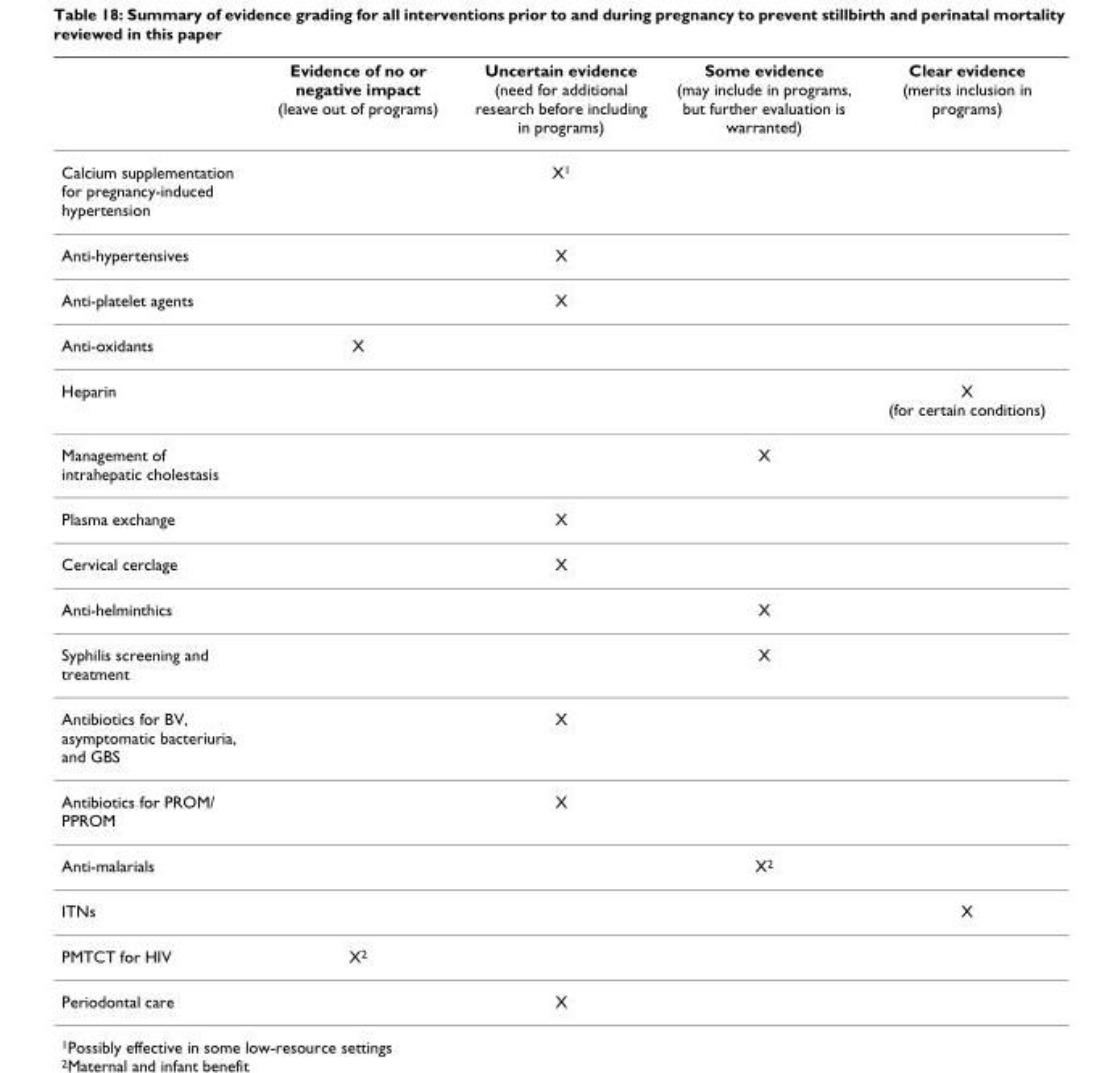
<table><thead><tr><td></td><td>Evidence of no or negative impact (leave out of programs)</td><td>Uncertain evidence (need for additional research before including in programs)</td><td>Some evidence (may include in programs, but further evaluation is warranted)</td><td>Clear evidence (merits inclusion in programs)</td></tr></thead><tbody><tr><td>Calcium supplementation for pregnancy-induced hypertension</td><td></td><td>X<sup>1</sup></td><td></td><td></td></tr><tr><td>Anti-hypertensives</td><td></td><td>X</td><td></td><td></td></tr><tr><td>Anti-platelet agents</td><td></td><td>X</td><td></td><td></td></tr><tr><td>Anti-oxidants</td><td>X</td><td></td><td></td><td></td></tr><tr><td>Heparin</td><td></td><td></td><td></td><td>X (for certain conditions)</td></tr><tr><td>Management of intrahepatic cholestasis</td><td></td><td></td><td>X</td><td></td></tr><tr><td>Plasma exchange</td><td></td><td>X</td><td></td><td></td></tr><tr><td>Cervical cerclage</td><td></td><td>X</td><td></td><td></td></tr><tr><td>Anti-helminthics</td><td></td><td></td><td>X</td><td></td></tr><tr><td>Syphilis screening and treatment</td><td></td><td></td><td>X</td><td></td></tr><tr><td>Antibiotics for BV, asymptomatic bacteriuria, and GBS</td><td></td><td>X</td><td></td><td></td></tr><tr><td>Antibiotics for PROM/ PPROM</td><td></td><td>X</td><td></td><td></td></tr><tr><td>Anti-malarials</td><td></td><td></td><td>X<sup>2</sup></td><td></td></tr><tr><td>ITNs</td><td></td><td></td><td></td><td>X</td></tr><tr><td>PMTCT for HIV</td><td>X<sup>2</sup></td><td></td><td></td><td></td></tr><tr><td>Periodontal care</td><td></td><td>X</td><td></td><td></td></tr></tbody></table>